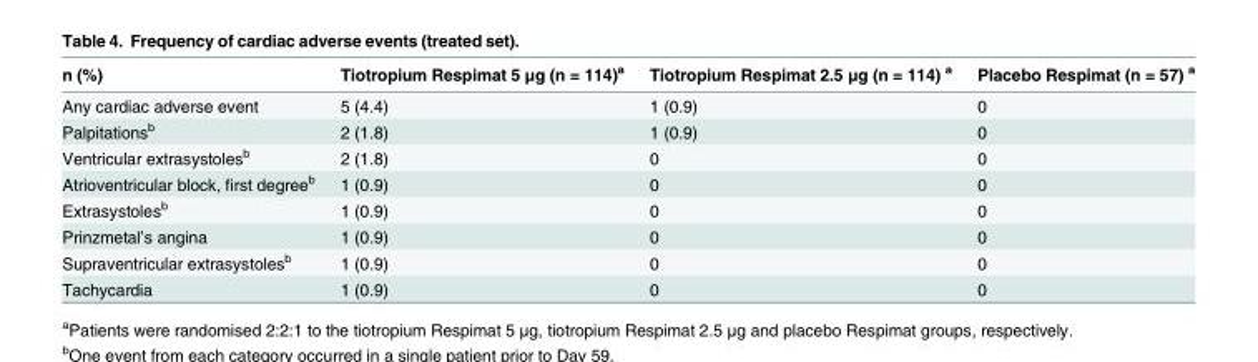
<table><thead><tr><td>n (%)</td><td>Tiotropium Respimat 5 μg (n = 114)<sup>a</sup></td><td>Tiotropium Respimat 2.5 μg (n = 114) <sup>a</sup></td><td>Placebo Respimat (n = 57) <sup>a</sup></td></tr></thead><tbody><tr><td>Any cardiac adverse event</td><td>5 (4.4)</td><td>1 (0.9)</td><td>0</td></tr><tr><td>Palpitations<sup>b</sup></td><td>2 (1.8)</td><td>1 (0.9)</td><td>0</td></tr><tr><td>Ventricular extrasystoles<sup>b</sup></td><td>2 (1.8)</td><td>0</td><td>0</td></tr><tr><td>Atrioventricular block, first degree<sup>b</sup></td><td>1 (0.9)</td><td>0</td><td>0</td></tr><tr><td>Extrasystoles<sup>b</sup></td><td>1 (0.9)</td><td>0</td><td>0</td></tr><tr><td>Prinzmetal’s angina</td><td>1 (0.9)</td><td>0</td><td>0</td></tr><tr><td>Supraventricular extrasystoles<sup>b</sup></td><td>1 (0.9)</td><td>0</td><td>0</td></tr><tr><td>Tachycardia</td><td>1 (0.9)</td><td>0</td><td>0</td></tr></tbody></table>